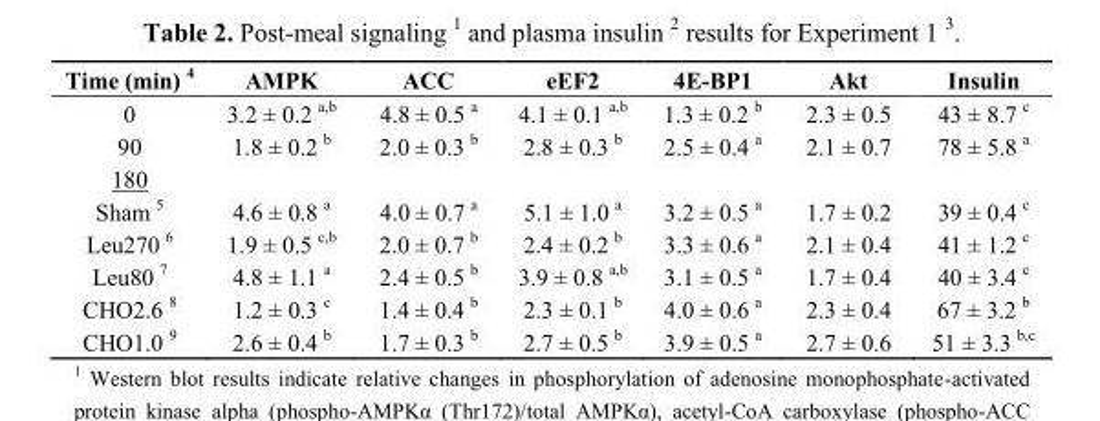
<table><thead><tr><td>Time (min) <sup>4</sup></td><td>AMPK</td><td>ACC</td><td>eEF2</td><td>4E-BP1</td><td>Akt</td><td>Insulin</td></tr></thead><tbody><tr><td>0</td><td>3.2 ± 0.2 <sup>a,b</sup></td><td>4.8 ± 0.5 <sup>a</sup></td><td>4.1 ± 0.1 <sup>a,b</sup></td><td>1.3 ± 0.2 <sup>b</sup></td><td>2.3 ± 0.5</td><td>43 ± 8.7 <sup>c</sup></td></tr><tr><td>90</td><td>1.8 ± 0.2 <sup>b</sup></td><td>2.0 ± 0.3 <sup>b</sup></td><td>2.8 ± 0.3 <sup>b</sup></td><td>2.5 ± 0.4 <sup>a</sup></td><td>2.1 ± 0.7</td><td>78 ± 5.8 <sup>a</sup></td></tr><tr><td colspan="7">180</td></tr><tr><td>Sham <sup>5</sup></td><td>4.6 ± 0.8 <sup>a</sup></td><td>4.0 ± 0.7 <sup>a</sup></td><td>5.1 ± 1.0 <sup>a</sup></td><td>3.2 ± 0.5 <sup>a</sup></td><td>1.7 ± 0.2</td><td>39 ± 0.4 <sup>c</sup></td></tr><tr><td>Leu270 <sup>6</sup></td><td>1.9 ± 0.5 <sup>c,b</sup></td><td>2.0 ± 0.7 <sup>b</sup></td><td>2.4 ± 0.2 <sup>b</sup></td><td>3.3 ± 0.6 <sup>a</sup></td><td>2.1 ± 0.4</td><td>41 ± 1.2 <sup>c</sup></td></tr><tr><td>Leu80 <sup>7</sup></td><td>4.8 ± 1.1 <sup>a</sup></td><td>2.4 ± 0.5 <sup>b</sup></td><td>3.9 ± 0.8 <sup>a,b</sup></td><td>3.1 ± 0.5 <sup>a</sup></td><td>1.7 ± 0.4</td><td>40 ± 3.4 <sup>c</sup></td></tr><tr><td>CHO2.6 <sup>8</sup></td><td>1.2 ± 0.3 <sup>c</sup></td><td>1.4 ± 0.4 <sup>b</sup></td><td>2.3 ± 0.1 <sup>b</sup></td><td>4.0 ± 0.6 <sup>a</sup></td><td>2.3 ± 0.4</td><td>67 ± 3.2 <sup>b</sup></td></tr><tr><td>CHO1.0 <sup>9</sup></td><td>2.6 ± 0.4 <sup>b</sup></td><td>1.7 ± 0.3 <sup>b</sup></td><td>2.7 ± 0.5 <sup>b</sup></td><td>3.9 ± 0.5 <sup>a</sup></td><td>2.7 ± 0.6</td><td>51 ± 3.3 <sup>b,c</sup></td></tr></tbody></table>